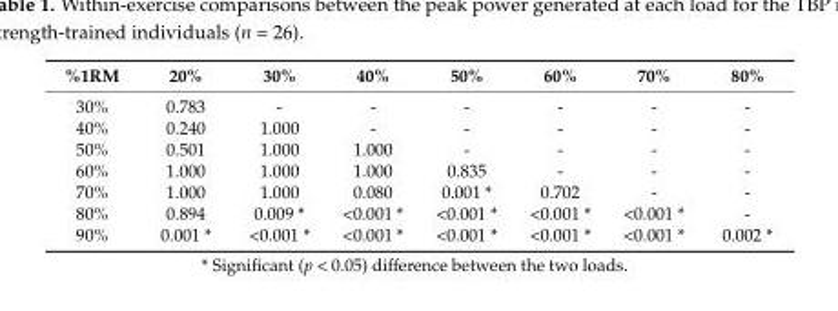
<table><thead><tr><td>%1RM</td><td>20%</td><td>30%</td><td>40%</td><td>50%</td><td>60%</td><td>70%</td><td>80%</td></tr></thead><tbody><tr><td>30%</td><td>0.783</td><td>-</td><td>-</td><td>-</td><td>-</td><td>-</td><td>-</td></tr><tr><td>40%</td><td>0.240</td><td>1.000</td><td>-</td><td>-</td><td>-</td><td>-</td><td>-</td></tr><tr><td>50%</td><td>0.501</td><td>1.000</td><td>1.000</td><td>-</td><td>-</td><td>-</td><td>-</td></tr><tr><td>60%</td><td>1.000</td><td>1.000</td><td>1.000</td><td>0.835</td><td>-</td><td>-</td><td>-</td></tr><tr><td>70%</td><td>1.000</td><td>1.000</td><td>0.080</td><td>0.001 *</td><td>0.702</td><td>-</td><td>-</td></tr><tr><td>80%</td><td>0.894</td><td>0.009 *</td><td>&lt;0.001 *</td><td>&lt;0.001 *</td><td>&lt;0.001 *</td><td>&lt;0.001 *</td><td>-</td></tr><tr><td>90%</td><td>0.001 *</td><td>&lt;0.001 *</td><td>&lt;0.001 *</td><td>&lt;0.001 *</td><td>&lt;0.001 *</td><td>&lt;0.001 *</td><td>0.002 *</td></tr></tbody></table>